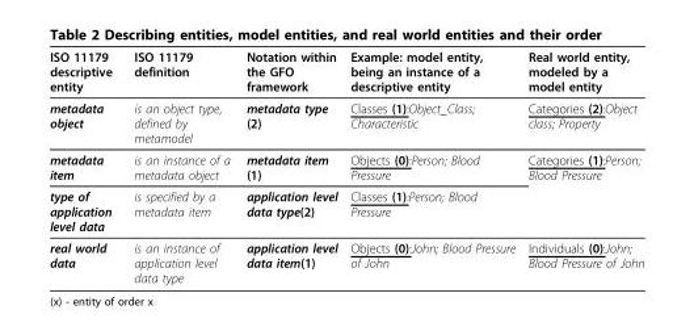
<table><thead><tr><td>ISO 11179 descriptive entity</td><td>ISO 11179 definition</td><td>Notation within the GFO framework</td><td>Example: model entity, being an instance of a descriptive entity</td><td>Real world entity, modeled by a model entity</td></tr></thead><tbody><tr><td>metadata object</td><td>is an object type, defined by metamodel</td><td>metadata type (2)</td><td>Classes (1):Object_Class; Characteristic</td><td>Categories (2):Object class; Property</td></tr><tr><td>metadata item</td><td>is an instance of a metadata object</td><td>metadata item (1)</td><td>Objects (0):Person; Blood Pressure</td><td>Categories (1):Person; Blood Pressure</td></tr><tr><td>type of application level data</td><td>is specified by a metadata item</td><td>application level data type(2)</td><td>Classes (1):Person; Blood Pressure</td><td></td></tr><tr><td>real world data</td><td>is an instance of application level data type</td><td>application level data item(1)</td><td>Objects (0):John; Blood Pressure of John</td><td>Individuals (0):John; Blood Pressure of John</td></tr></tbody></table>